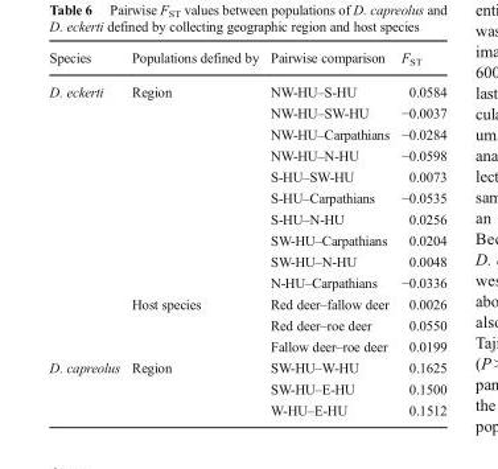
<table><thead><tr><td>Species</td><td>Populations defined by</td><td>Pairwise comparison</td><td>F<sub>ST</sub></td></tr></thead><tbody><tr><td rowspan="13">D. eckerti</td><td rowspan="10">Region</td><td>NW-HU–S-HU</td><td>0.0584</td></tr><tr><td>NW-HU–SW-HU</td><td>−0.0037</td></tr><tr><td>NW-HU–Carpathians</td><td>−0.0284</td></tr><tr><td>NW-HU–N-HU</td><td>−0.0598</td></tr><tr><td>S-HU–SW-HU</td><td>0.0073</td></tr><tr><td>S-HU–Carpathians</td><td>−0.0535</td></tr><tr><td>S-HU–N-HU</td><td>0.0256</td></tr><tr><td>SW-HU–Carpathians</td><td>0.0204</td></tr><tr><td>SW-HU–N-HU</td><td>0.0048</td></tr><tr><td>N-HU–Carpathians</td><td>−0.0336</td></tr><tr><td rowspan="3">Host species</td><td>Red deer–fallow deer</td><td>0.0026</td></tr><tr><td>Red deer–roe deer</td><td>0.0550</td></tr><tr><td>Fallow deer–roe deer</td><td>0.0199</td></tr><tr><td rowspan="3">D. capreolus</td><td rowspan="3">Region</td><td>SW-HU–W-HU</td><td>0.1625</td></tr><tr><td>SW-HU–E-HU</td><td>0.1500</td></tr><tr><td>W-HU–E-HU</td><td>0.1512</td></tr></tbody></table>